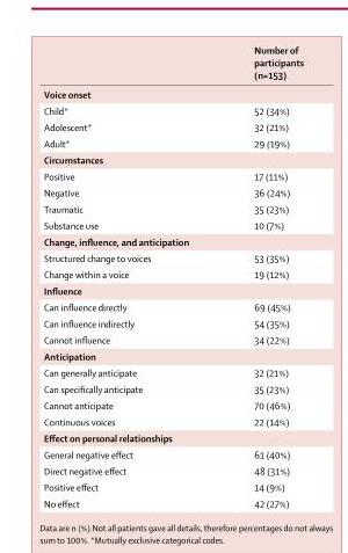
<table><thead><tr><td></td><td>Number of participants (n=153)</td></tr></thead><tbody><tr><td colspan="2">Voice onset</td></tr><tr><td>Child*</td><td>52 (34%)</td></tr><tr><td>Adolescent*</td><td>32 (21%)</td></tr><tr><td>Adult*</td><td>29 (19%)</td></tr><tr><td colspan="2">Circumstances</td></tr><tr><td>Positive</td><td>17 (11%)</td></tr><tr><td>Negative</td><td>36 (24%)</td></tr><tr><td>Traumatic</td><td>35 (23%)</td></tr><tr><td>Substance use</td><td>10 (7%)</td></tr><tr><td colspan="2">Change, infl uence, and anticipation</td></tr><tr><td>Structured change to voices</td><td>53 (35%)</td></tr><tr><td>Change within a voice</td><td>19 (12%)</td></tr><tr><td colspan="2">Infl uence</td></tr><tr><td>Can infl uence directly</td><td>69 (45%)</td></tr><tr><td>Can infl uence indirectly</td><td>54 (35%)</td></tr><tr><td>Cannot infl uence</td><td>34 (22%)</td></tr><tr><td colspan="2">Anticipation</td></tr><tr><td>Can generally anticipate</td><td>32 (21%)</td></tr><tr><td>Can specifi cally anticipate</td><td>35 (23%)</td></tr><tr><td>Cannot anticipate</td><td>70 (46%)</td></tr><tr><td>Continuous voices</td><td>22 (14%)</td></tr><tr><td colspan="2">Eff ect on personal relationships</td></tr><tr><td>General negative eff ect</td><td>61 (40%)</td></tr><tr><td>Direct negative eff ect</td><td>48 (31%)</td></tr><tr><td>Positive eff ect</td><td>14 (9%)</td></tr><tr><td>No eff ect</td><td>42 (27%)</td></tr></tbody></table>